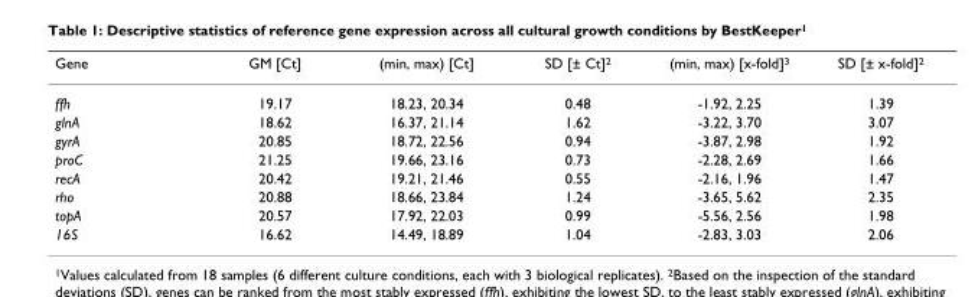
<table><thead><tr><td>Gene</td><td>GM [Ct]</td><td>(min, max) [Ct]</td><td>SD [± Ct]<sup>2</sup></td><td>(min, max) [x-fold]<sup>3</sup></td><td>SD [± x-fold]<sup>2</sup></td></tr></thead><tbody><tr><td>ffh</td><td>19.17</td><td>18.23, 20.34</td><td>0.48</td><td>-1.92, 2.25</td><td>1.39</td></tr><tr><td>glnA</td><td>18.62</td><td>16.37, 21.14</td><td>1.62</td><td>-3.22, 3.70</td><td>3.07</td></tr><tr><td>gyrA</td><td>20.85</td><td>18.72, 22.56</td><td>0.94</td><td>-3.87, 2.98</td><td>1.92</td></tr><tr><td>proC</td><td>21.25</td><td>19.66, 23.16</td><td>0.73</td><td>-2.28, 2.69</td><td>1.66</td></tr><tr><td>recA</td><td>20.42</td><td>19.21, 21.46</td><td>0.55</td><td>-2.16, 1.96</td><td>1.47</td></tr><tr><td>rho</td><td>20.88</td><td>18.66, 23.84</td><td>1.24</td><td>-3.65, 5.62</td><td>2.35</td></tr><tr><td>topA</td><td>20.57</td><td>17.92, 22.03</td><td>0.99</td><td>-5.56, 2.56</td><td>1.98</td></tr><tr><td>16S</td><td>16.62</td><td>14.49, 18.89</td><td>1.04</td><td>-2.83, 3.03</td><td>2.06</td></tr></tbody></table>